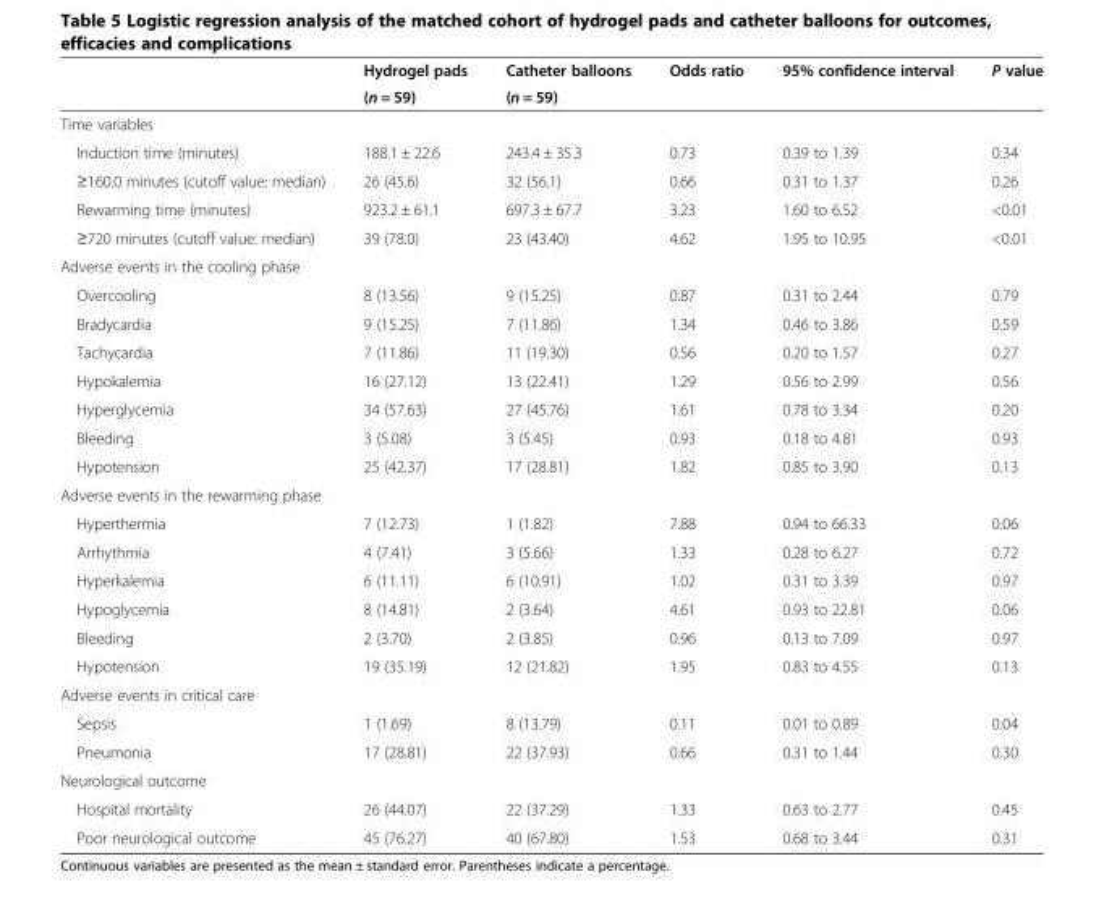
<table><thead><tr><td rowspan="2"></td><td rowspan="2">Hydrogel pads (n = 59)</td><td rowspan="2">Catheter balloons (n = 59)</td><td rowspan="2">Odds ratio</td><td rowspan="2">95% confidence interval</td><td rowspan="2">P value</td></tr><tr></tr></thead><tbody><tr><td colspan="6">Time variables</td></tr><tr><td>Induction time (minutes)</td><td>188.1 ± 22.6</td><td>243.4 ± 35.3</td><td>0.73</td><td>0.39 to 1.39</td><td>0.34</td></tr><tr><td>≥160.0 minutes (cutoff value: median)</td><td>26 (45.6)</td><td>32 (56.1)</td><td>0.66</td><td>0.31 to 1.37</td><td>0.26</td></tr><tr><td>Rewarming time (minutes)</td><td>923.2 ± 61.1</td><td>697.3 ± 67.7</td><td>3.23</td><td>1.60 to 6.52</td><td>&lt;0.01</td></tr><tr><td>≥720 minutes (cutoff value: median)</td><td>39 (78.0)</td><td>23 (43.40)</td><td>4.62</td><td>1.95 to 10.95</td><td>&lt;0.01</td></tr><tr><td colspan="6">Adverse events in the cooling phase</td></tr><tr><td>Overcooling</td><td>8 (13.56)</td><td>9 (15.25)</td><td>0.87</td><td>0.31 to 2.44</td><td>0.79</td></tr><tr><td>Bradycardia</td><td>9 (15.25)</td><td>7 (11.86)</td><td>1.34</td><td>0.46 to 3.86</td><td>0.59</td></tr><tr><td>Tachycardia</td><td>7 (11.86)</td><td>11 (19.30)</td><td>0.56</td><td>0.20 to 1.57</td><td>0.27</td></tr><tr><td>Hypokalemia</td><td>16 (27.12)</td><td>13 (22.41)</td><td>1.29</td><td>0.56 to 2.99</td><td>0.56</td></tr><tr><td>Hyperglycemia</td><td>34 (57.63)</td><td>27 (45.76)</td><td>1.61</td><td>0.78 to 3.34</td><td>0.20</td></tr><tr><td>Bleeding</td><td>3 (5.08)</td><td>3 (5.45)</td><td>0.93</td><td>0.18 to 4.81</td><td>0.93</td></tr><tr><td>Hypotension</td><td>25 (42.37)</td><td>17 (28.81)</td><td>1.82</td><td>0.85 to 3.90</td><td>0.13</td></tr><tr><td colspan="6">Adverse events in the rewarming phase</td></tr><tr><td>Hyperthermia</td><td>7 (12.73)</td><td>1 (1.82)</td><td>7.88</td><td>0.94 to 66.33</td><td>0.06</td></tr><tr><td>Arrhythmia</td><td>4 (7.41)</td><td>3 (5.66)</td><td>1.33</td><td>0.28 to 6.27</td><td>0.72</td></tr><tr><td>Hyperkalemia</td><td>6 (11.11)</td><td>6 (10.91)</td><td>1.02</td><td>0.31 to 3.39</td><td>0.97</td></tr><tr><td>Hypoglycemia</td><td>8 (14.81)</td><td>2 (3.64)</td><td>4.61</td><td>0.93 to 22.81</td><td>0.06</td></tr><tr><td>Bleeding</td><td>2 (3.70)</td><td>2 (3.85)</td><td>0.96</td><td>0.13 to 7.09</td><td>0.97</td></tr><tr><td>Hypotension</td><td>19 (35.19)</td><td>12 (21.82)</td><td>1.95</td><td>0.83 to 4.55</td><td>0.13</td></tr><tr><td colspan="6">Adverse events in critical care</td></tr><tr><td>Sepsis</td><td>1 (1.69)</td><td>8 (13.79)</td><td>0.11</td><td>0.01 to 0.89</td><td>0.04</td></tr><tr><td>Pneumonia</td><td>17 (28.81)</td><td>22 (37.93)</td><td>0.66</td><td>0.31 to 1.44</td><td>0.30</td></tr><tr><td colspan="6">Neurological outcome</td></tr><tr><td>Hospital mortality</td><td>26 (44.07)</td><td>22 (37.29)</td><td>1.33</td><td>0.63 to 2.77</td><td>0.45</td></tr><tr><td>Poor neurological outcome</td><td>45 (76.27)</td><td>40 (67.80)</td><td>1.53</td><td>0.68 to 3.44</td><td>0.31</td></tr></tbody></table>